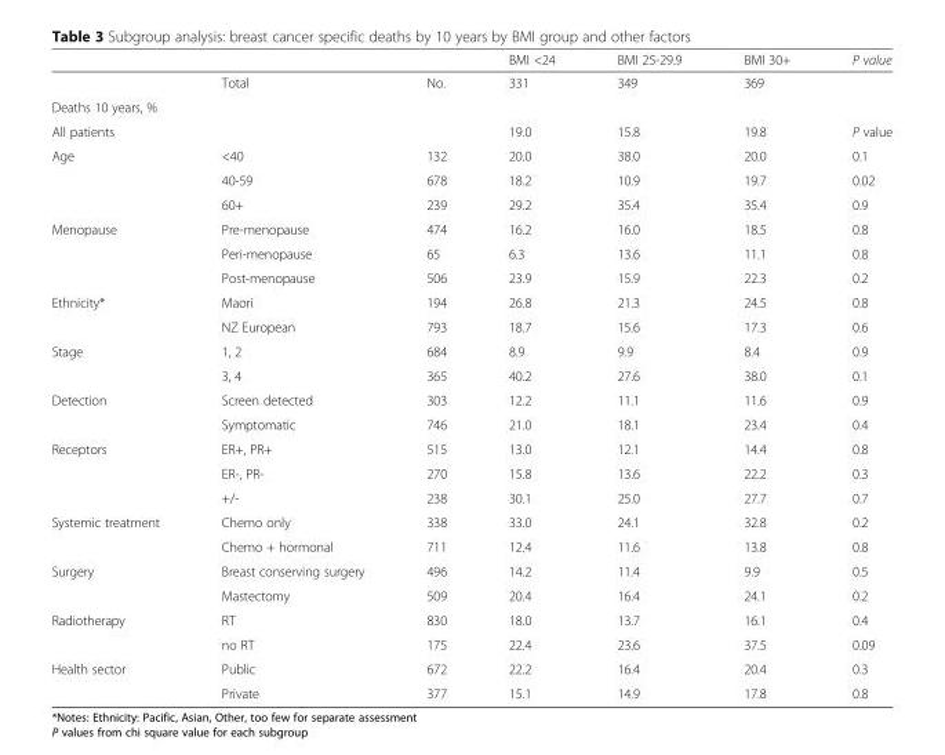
<table><thead><tr><td></td><td></td><td></td><td>BMI &lt;24</td><td>BMI 25-29.9</td><td>BMI 30+</td><td>P value</td></tr></thead><tbody><tr><td></td><td>Total</td><td>No.</td><td>331</td><td>349</td><td>369</td><td></td></tr><tr><td colspan="7">Deaths 10 years, %</td></tr><tr><td colspan="3">All patients</td><td>19.0</td><td>15.8</td><td>19.8</td><td>P value</td></tr><tr><td rowspan="3">Age</td><td>&lt;40</td><td>132</td><td>20.0</td><td>38.0</td><td>20.0</td><td>0.1</td></tr><tr><td>40-59</td><td>678</td><td>18.2</td><td>10.9</td><td>19.7</td><td>0.02</td></tr><tr><td>60+</td><td>239</td><td>29.2</td><td>35.4</td><td>35.4</td><td>0.9</td></tr><tr><td rowspan="3">Menopause</td><td>Pre-menopause</td><td>474</td><td>16.2</td><td>16.0</td><td>18.5</td><td>0.8</td></tr><tr><td>Peri-menopause</td><td>65</td><td>6.3</td><td>13.6</td><td>11.1</td><td>0.8</td></tr><tr><td>Post-menopause</td><td>506</td><td>23.9</td><td>15.9</td><td>22.3</td><td>0.2</td></tr><tr><td rowspan="2">Ethnicity*</td><td>Maori</td><td>194</td><td>26.8</td><td>21.3</td><td>24.5</td><td>0.8</td></tr><tr><td>NZ European</td><td>793</td><td>18.7</td><td>15.6</td><td>17.3</td><td>0.6</td></tr><tr><td rowspan="2">Stage</td><td>1, 2</td><td>684</td><td>8.9</td><td>9.9</td><td>8.4</td><td>0.9</td></tr><tr><td>3, 4</td><td>365</td><td>40.2</td><td>27.6</td><td>38.0</td><td>0.1</td></tr><tr><td rowspan="2">Detection</td><td>Screen detected</td><td>303</td><td>12.2</td><td>11.1</td><td>11.6</td><td>0.9</td></tr><tr><td>Symptomatic</td><td>746</td><td>21.0</td><td>18.1</td><td>23.4</td><td>0.4</td></tr><tr><td rowspan="3">Receptors</td><td>ER+, PR+</td><td>515</td><td>13.0</td><td>12.1</td><td>14.4</td><td>0.8</td></tr><tr><td>ER-, PR-</td><td>270</td><td>15.8</td><td>13.6</td><td>22.2</td><td>0.3</td></tr><tr><td>+/-</td><td>238</td><td>30.1</td><td>25.0</td><td>27.7</td><td>0.7</td></tr><tr><td rowspan="2">Systemic treatment</td><td>Chemo only</td><td>338</td><td>33.0</td><td>24.1</td><td>32.8</td><td>0.2</td></tr><tr><td>Chemo + hormonal</td><td>711</td><td>12.4</td><td>11.6</td><td>13.8</td><td>0.8</td></tr><tr><td rowspan="2">Surgery</td><td>Breast conserving surgery</td><td>496</td><td>14.2</td><td>11.4</td><td>9.9</td><td>0.5</td></tr><tr><td>Mastectomy</td><td>509</td><td>20.4</td><td>16.4</td><td>24.1</td><td>0.2</td></tr><tr><td rowspan="2">Radiotherapy</td><td>RT</td><td>830</td><td>18.0</td><td>13.7</td><td>16.1</td><td>0.4</td></tr><tr><td>no RT</td><td>175</td><td>22.4</td><td>23.6</td><td>37.5</td><td>0.09</td></tr><tr><td rowspan="2">Health sector</td><td>Public</td><td>672</td><td>22.2</td><td>16.4</td><td>20.4</td><td>0.3</td></tr><tr><td>Private</td><td>377</td><td>15.1</td><td>14.9</td><td>17.8</td><td>0.8</td></tr></tbody></table>